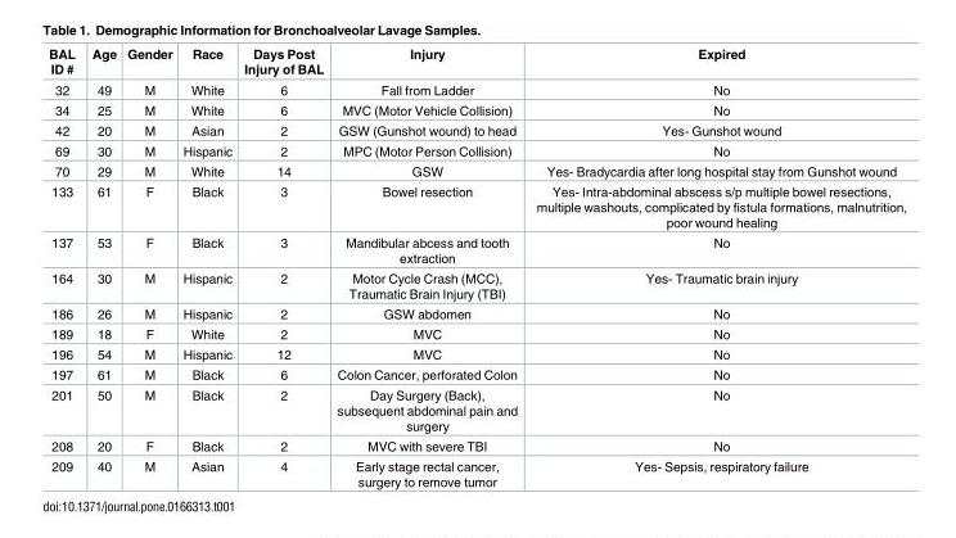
<table><thead><tr><td>BAL ID #</td><td>Age</td><td>Gender</td><td>Race</td><td>Days Post Injury of BAL</td><td>Injury</td><td>Expired</td></tr></thead><tbody><tr><td>32</td><td>49</td><td>M</td><td>White</td><td>6</td><td>Fall from Ladder</td><td>No</td></tr><tr><td>34</td><td>25</td><td>M</td><td>White</td><td>6</td><td>MVC (Motor Vehicle Collision)</td><td>No</td></tr><tr><td>42</td><td>20</td><td>M</td><td>Asian</td><td>2</td><td>GSW (Gunshot wound) to head</td><td>Yes- Gunshot wound</td></tr><tr><td>69</td><td>30</td><td>M</td><td>Hispanic</td><td>2</td><td>MPC (Motor Person Collision)</td><td>No</td></tr><tr><td>70</td><td>29</td><td>M</td><td>White</td><td>14</td><td>GSW</td><td>Yes- Bradycardia after long hospital stay from Gunshot wound</td></tr><tr><td>133</td><td>61</td><td>F</td><td>Black</td><td>3</td><td>Bowel resection</td><td>Yes- Intra-abdominal abscess s/p multiple bowel resections, multiple washouts, complicated by fistula formations, malnutrition, poor wound healing</td></tr><tr><td>137</td><td>53</td><td>F</td><td>Black</td><td>3</td><td>Mandibular abcess and tooth extraction</td><td>No</td></tr><tr><td>164</td><td>30</td><td>M</td><td>Hispanic</td><td>2</td><td>Motor Cycle Crash (MCC), Traumatic Brain Injury (TBI)</td><td>Yes- Traumatic brain injury</td></tr><tr><td>186</td><td>26</td><td>M</td><td>Hispanic</td><td>2</td><td>GSW abdomen</td><td>No</td></tr><tr><td>189</td><td>18</td><td>F</td><td>White</td><td>2</td><td>MVC</td><td>No</td></tr><tr><td>196</td><td>54</td><td>M</td><td>Hispanic</td><td>12</td><td>MVC</td><td>No</td></tr><tr><td>197</td><td>61</td><td>M</td><td>Black</td><td>6</td><td>Colon Cancer, perforated Colon</td><td>No</td></tr><tr><td>201</td><td>50</td><td>M</td><td>Black</td><td>2</td><td>Day Surgery (Back), subsequent abdominal pain and surgery</td><td>No</td></tr><tr><td>208</td><td>20</td><td>F</td><td>Black</td><td>2</td><td>MVC with severe TBI</td><td>No</td></tr><tr><td>209</td><td>40</td><td>M</td><td>Asian</td><td>4</td><td>Early stage rectal cancer, surgery to remove tumor</td><td>Yes- Sepsis, respiratory failure</td></tr></tbody></table>